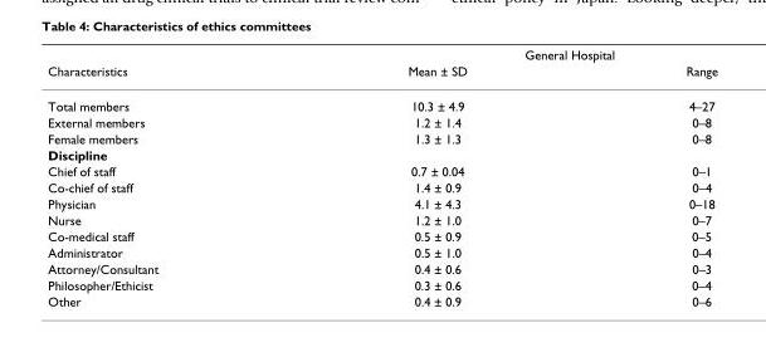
<table><thead><tr><td rowspan="2">Characteristics</td><td colspan="2">General Hospital</td></tr><tr><td>Mean ± SD</td><td>Range</td></tr></thead><tbody><tr><td>Total members</td><td>10.3 ± 4.9</td><td>4–27</td></tr><tr><td>External members</td><td>1.2 ± 1.4</td><td>0–8</td></tr><tr><td>Female members</td><td>1.3 ± 1.3</td><td>0–8</td></tr><tr><td colspan="3">Discipline</td></tr><tr><td>Chief of staff</td><td>0.7 ± 0.04</td><td>0–1</td></tr><tr><td>Co-chief of staff</td><td>1.4 ± 0.9</td><td>0–4</td></tr><tr><td>Physician</td><td>4.1 ± 4.3</td><td>0–18</td></tr><tr><td>Nurse</td><td>1.2 ± 1.0</td><td>0–7</td></tr><tr><td>Co-medical staff</td><td>0.5 ± 0.9</td><td>0–5</td></tr><tr><td>Administrator</td><td>0.5 ± 1.0</td><td>0–4</td></tr><tr><td>Attorney/Consultant</td><td>0.4 ± 0.6</td><td>0–3</td></tr><tr><td>Philosopher/Ethicist</td><td>0.3 ± 0.6</td><td>0–4</td></tr><tr><td>Other</td><td>0.4 ± 0.9</td><td>0–6</td></tr></tbody></table>